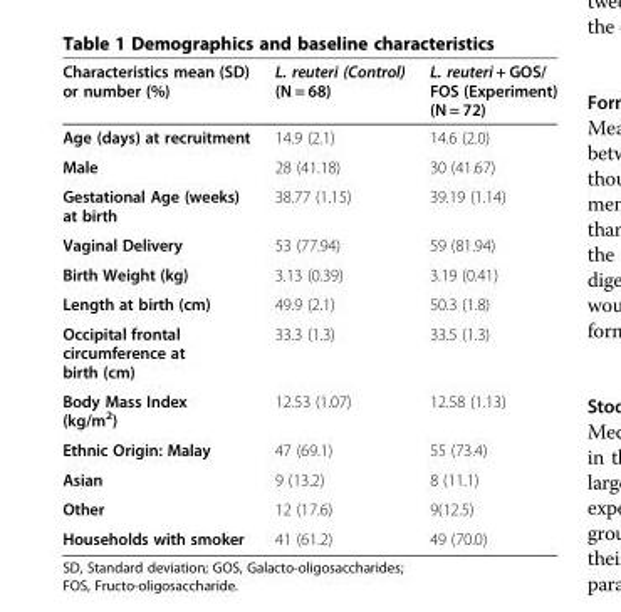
<table><thead><tr><td>Characteristics mean (SD) or number (%)</td><td>L. reuteri (Control) (N = 68)</td><td>L. reuteri + GOS/ FOS (Experiment) (N = 72)</td></tr></thead><tbody><tr><td>Age (days) at recruitment</td><td>14.9 (2.1)</td><td>14.6 (2.0)</td></tr><tr><td>Male</td><td>28 (41.18)</td><td>30 (41.67)</td></tr><tr><td>Gestational Age (weeks) at birth</td><td>38.77 (1.15)</td><td>39.19 (1.14)</td></tr><tr><td>Vaginal Delivery</td><td>53 (77.94)</td><td>59 (81.94)</td></tr><tr><td>Birth Weight (kg)</td><td>3.13 (0.39)</td><td>3.19 (0.41)</td></tr><tr><td>Length at birth (cm)</td><td>49.9 (2.1)</td><td>50.3 (1.8)</td></tr><tr><td>Occipital frontal circumference at birth (cm)</td><td>33.3 (1.3)</td><td>33.5 (1.3)</td></tr><tr><td>Body Mass Index (kg/m<sup>2</sup>)</td><td>12.53 (1.07)</td><td>12.58 (1.13)</td></tr><tr><td>Ethnic Origin: Malay</td><td>47 (69.1)</td><td>55 (73.4)</td></tr><tr><td>Asian</td><td>9 (13.2)</td><td>8 (11.1)</td></tr><tr><td>Other</td><td>12 (17.6)</td><td>9(12.5)</td></tr><tr><td>Households with smoker</td><td>41 (61.2)</td><td>49 (70.0)</td></tr></tbody></table>